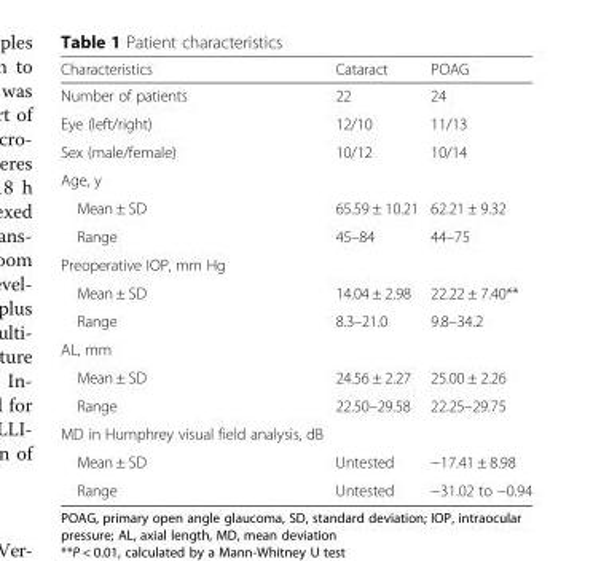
<table><thead><tr><td>Characteristics</td><td>Cataract</td><td>POAG</td></tr></thead><tbody><tr><td>Number of patients</td><td>22</td><td>24</td></tr><tr><td>Eye (left/right)</td><td>12/10</td><td>11/13</td></tr><tr><td>Sex (male/female)</td><td>10/12</td><td>10/14</td></tr><tr><td colspan="3">Age, y</td></tr><tr><td>Mean ± SD</td><td>65.59 ± 10.21</td><td>62.21 ± 9.32</td></tr><tr><td>Range</td><td>45–84</td><td>44–75</td></tr><tr><td colspan="3">Preoperative IOP, mm Hg</td></tr><tr><td>Mean ± SD</td><td>14.04 ± 2.98</td><td>22.22 ± 7.40**</td></tr><tr><td>Range</td><td>8.3–21.0</td><td>9.8–34.2</td></tr><tr><td colspan="3">AL, mm</td></tr><tr><td>Mean ± SD</td><td>24.56 ± 2.27</td><td>25.00 ± 2.26</td></tr><tr><td>Range</td><td>22.50–29.58</td><td>22.25–29.75</td></tr><tr><td colspan="3">MD in Humphrey visual field analysis, dB</td></tr><tr><td>Mean ± SD</td><td>Untested</td><td>−17.41 ± 8.98</td></tr><tr><td>Range</td><td>Untested</td><td>−31.02 to −0.94</td></tr></tbody></table>